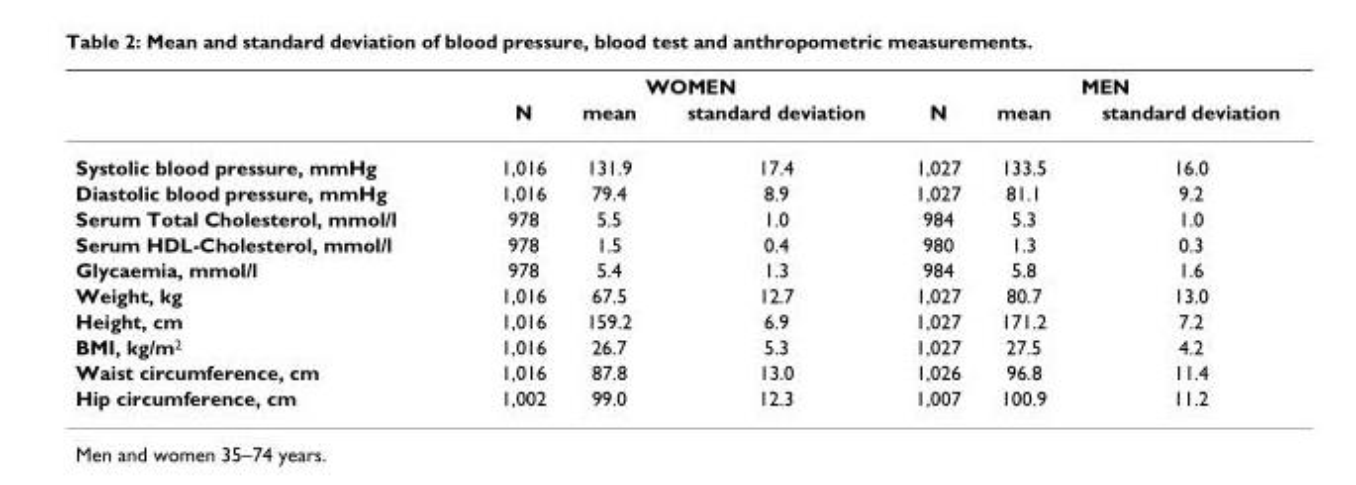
<table><thead><tr><td rowspan="2"></td><td colspan="3">WOMEN</td><td colspan="3">MEN</td></tr><tr><td>N</td><td>mean</td><td>standard deviation</td><td>N</td><td>mean</td><td>standard deviation</td></tr></thead><tbody><tr><td>Systolic blood pressure, mmHg</td><td>1,016</td><td>131.9</td><td>17.4</td><td>1,027</td><td>133.5</td><td>16.0</td></tr><tr><td>Diastolic blood pressure, mmHg</td><td>1,016</td><td>79.4</td><td>8.9</td><td>1,027</td><td>81.1</td><td>9.2</td></tr><tr><td>Serum Total Cholesterol, mmol/l</td><td>978</td><td>5.5</td><td>1.0</td><td>984</td><td>5.3</td><td>1.0</td></tr><tr><td>Serum HDL-Cholesterol, mmol/l</td><td>978</td><td>1.5</td><td>0.4</td><td>980</td><td>1.3</td><td>0.3</td></tr><tr><td>Glycaemia, mmol/l</td><td>978</td><td>5.4</td><td>1.3</td><td>984</td><td>5.8</td><td>1.6</td></tr><tr><td>Weight, kg</td><td>1,016</td><td>67.5</td><td>12.7</td><td>1,027</td><td>80.7</td><td>13.0</td></tr><tr><td>Height, cm</td><td>1,016</td><td>159.2</td><td>6.9</td><td>1,027</td><td>171.2</td><td>7.2</td></tr><tr><td>BMI, kg/m<sup>2</sup></td><td>1,016</td><td>26.7</td><td>5.3</td><td>1,027</td><td>27.5</td><td>4.2</td></tr><tr><td>Waist circumference, cm</td><td>1,016</td><td>87.8</td><td>13.0</td><td>1,026</td><td>96.8</td><td>11.4</td></tr><tr><td>Hip circumference, cm</td><td>1,002</td><td>99.0</td><td>12.3</td><td>1,007</td><td>100.9</td><td>11.2</td></tr></tbody></table>